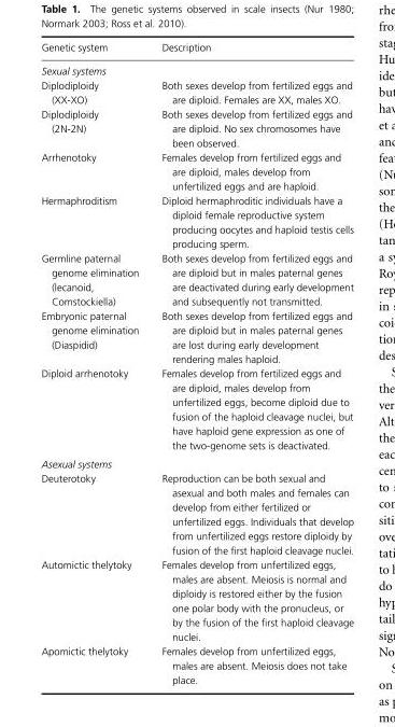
<table><thead><tr><td>Genetic system</td><td>Description</td></tr></thead><tbody><tr><td colspan="2">Sexual systems</td></tr><tr><td>Diplodiploidy (XX-XO)</td><td>Both sexes develop from fertilized eggs and are diploid. Females are XX, males XO.</td></tr><tr><td>Diplodiploidy (2N-2N)</td><td>Both sexes develop from fertilized eggs and are diploid. No sex chromosomes have been observed.</td></tr><tr><td>Arrhenotoky</td><td>Females develop from fertilized eggs and are diploid, males develop from unfertilized eggs and are haploid.</td></tr><tr><td>Hermaphroditism</td><td>Diploid hermaphroditic individuals have a diploid female reproductive system producing oocytes and haploid testis cells producing sperm.</td></tr><tr><td>Germline paternal genome elimination (lecanoid, Comstockiella)</td><td>Both sexes develop from fertilized eggs and are diploid but in males paternal genes are deactivated during early development and subsequently not transmitted.</td></tr><tr><td>Embryonic paternal genome elimination (Diaspidid)</td><td>Both sexes develop from fertilized eggs and are diploid but in males paternal genes are lost during early development rendering males haploid.</td></tr><tr><td>Diploid arrhenotoky</td><td>Females develop from fertilized eggs and are diploid, males develop from unfertilized eggs, become diploid due to fusion of the haploid cleavage nuclei, but have haploid gene expression as one of the two-genome sets is deactivated.</td></tr><tr><td colspan="2">Asexual systems</td></tr><tr><td>Deuterotoky</td><td>Reproduction can be both sexual and asexual and both males and females can develop from either fertilized or unfertilized eggs. Individuals that develop from unfertilized eggs restore diploidy by fusion of the first haploid cleavage nuclei.</td></tr><tr><td>Automictic thelytoky</td><td>Females develop from unfertilized eggs, males are absent. Meiosis is normal and diploidy is restored either by the fusion one polar body with the pronucleus, or by the fusion of the first haploid cleavage nuclei.</td></tr><tr><td>Apomictic thelytoky</td><td>Females develop from unfertilized eggs, males are absent. Meiosis does not take place.</td></tr></tbody></table>